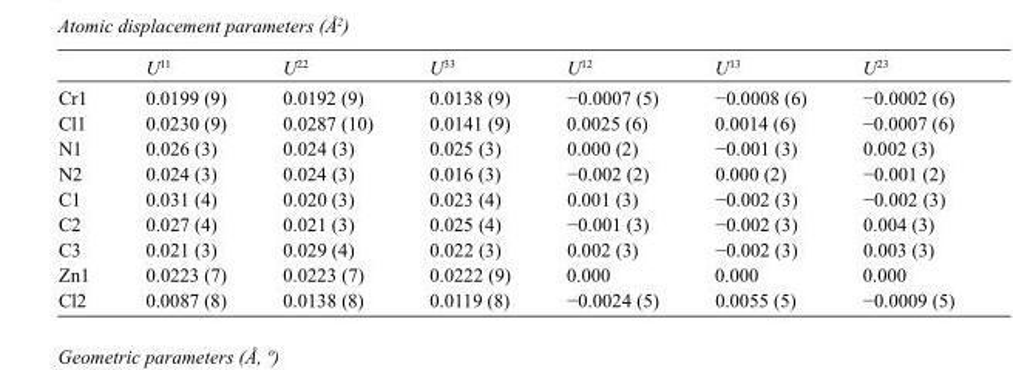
<table><thead><tr><td></td><td>U<sup>11</sup></td><td>U<sup>22</sup></td><td>U<sup>33</sup></td><td>U<sup>12</sup></td><td>U<sup>13</sup></td><td>U<sup>23</sup></td></tr></thead><tbody><tr><td>Cr1</td><td>0.0199 (9)</td><td>0.0192 (9)</td><td>0.0138 (9)</td><td>−0.0007 (5)</td><td>−0.0008 (6)</td><td>−0.0002 (6)</td></tr><tr><td>Cl1</td><td>0.0230 (9)</td><td>0.0287 (10)</td><td>0.0141 (9)</td><td>0.0025 (6)</td><td>0.0014 (6)</td><td>−0.0007 (6)</td></tr><tr><td>N1</td><td>0.026 (3)</td><td>0.024 (3)</td><td>0.025 (3)</td><td>0.000 (2)</td><td>−0.001 (3)</td><td>0.002 (3)</td></tr><tr><td>N2</td><td>0.024 (3)</td><td>0.024 (3)</td><td>0.016 (3)</td><td>−0.002 (2)</td><td>0.000 (2)</td><td>−0.001 (2)</td></tr><tr><td>C1</td><td>0.031 (4)</td><td>0.020 (3)</td><td>0.023 (4)</td><td>0.001 (3)</td><td>−0.002 (3)</td><td>−0.002 (3)</td></tr><tr><td>C2</td><td>0.027 (4)</td><td>0.021 (3)</td><td>0.025 (4)</td><td>−0.001 (3)</td><td>−0.002 (3)</td><td>0.004 (3)</td></tr><tr><td>C3</td><td>0.021 (3)</td><td>0.029 (4)</td><td>0.022 (3)</td><td>0.002 (3)</td><td>−0.002 (3)</td><td>0.003 (3)</td></tr><tr><td>Zn1</td><td>0.0223 (7)</td><td>0.0223 (7)</td><td>0.0222 (9)</td><td>0.000</td><td>0.000</td><td>0.000</td></tr><tr><td>Cl2</td><td>0.0087 (8)</td><td>0.0138 (8)</td><td>0.0119 (8)</td><td>−0.0024 (5)</td><td>0.0055 (5)</td><td>−0.0009 (5)</td></tr></tbody></table>